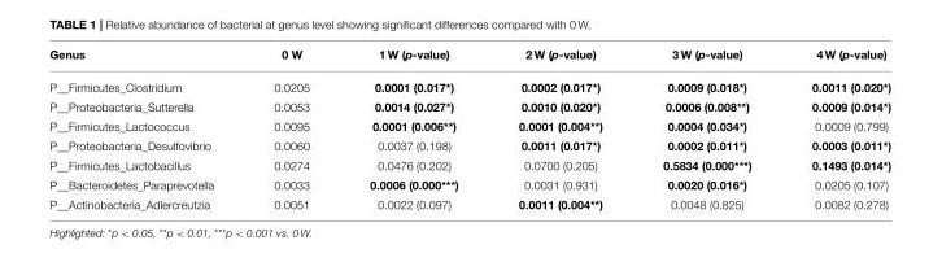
<table><thead><tr><td>Genus</td><td>0 W</td><td>1 W (p-value)</td><td>2 W (p-value)</td><td>3 W (p-value)</td><td>4 W (p-value)</td></tr></thead><tbody><tr><td>P__Firmicutes_Clostridium</td><td>0.0205</td><td>0.0001 (0.017*)</td><td>0.0002 (0.017*)</td><td>0.0009 (0.018*)</td><td>0.0011 (0.020*)</td></tr><tr><td>P__Proteobacteria_Sutterella</td><td>0.0053</td><td>0.0014 (0.027*)</td><td>0.0010 (0.020*)</td><td>0.0006 (0.008**)</td><td>0.0009 (0.014*)</td></tr><tr><td>P__Firmicutes_Lactococcus</td><td>0.0095</td><td>0.0001 (0.006**)</td><td>0.0001 (0.004**)</td><td>0.0004 (0.034*)</td><td>0.0009 (0.799)</td></tr><tr><td>P__Proteobacteria_Desulfovibrio</td><td>0.0060</td><td>0.0037 (0.198)</td><td>0.0011 (0.017*)</td><td>0.0002 (0.011*)</td><td>0.0003 (0.011*)</td></tr><tr><td>P__Firmicutes_Lactobacillus</td><td>0.0274</td><td>0.0476 (0.202)</td><td>0.0700 (0.205)</td><td>0.5834 (0.000***)</td><td>0.1493 (0.014*)</td></tr><tr><td>P__Bacteroidetes_Paraprevotella</td><td>0.0033</td><td>0.0006 (0.000***)</td><td>0.0031 (0.931)</td><td>0.0020 (0.016*)</td><td>0.0205 (0.107)</td></tr><tr><td>P__Actinobacteria_Adlercreutzia</td><td>0.0051</td><td>0.0022 (0.097)</td><td>0.0011 (0.004**)</td><td>0.0048 (0.825)</td><td>0.0082 (0.278)</td></tr></tbody></table>